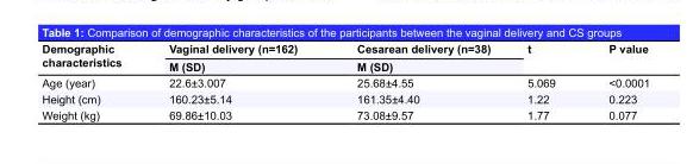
<table><thead><tr><td rowspan="2">Demographic characteristics</td><td rowspan="2">Vaginal delivery (n=162) M (SD)</td><td rowspan="2">Cesarean delivery (n=38) M (SD)</td><td rowspan="2">t</td><td rowspan="2">P value</td></tr><tr></tr></thead><tbody><tr><td>Age (year)</td><td>22.6±3.007</td><td>25.68±4.55</td><td>5.069</td><td>&lt;0.0001</td></tr><tr><td>Height (cm)</td><td>160.23±5.14</td><td>161.35±4.40</td><td>1.22</td><td>0.223</td></tr><tr><td>Weight (kg)</td><td>69.86±10.03</td><td>73.08±9.57</td><td>1.77</td><td>0.077</td></tr></tbody></table>